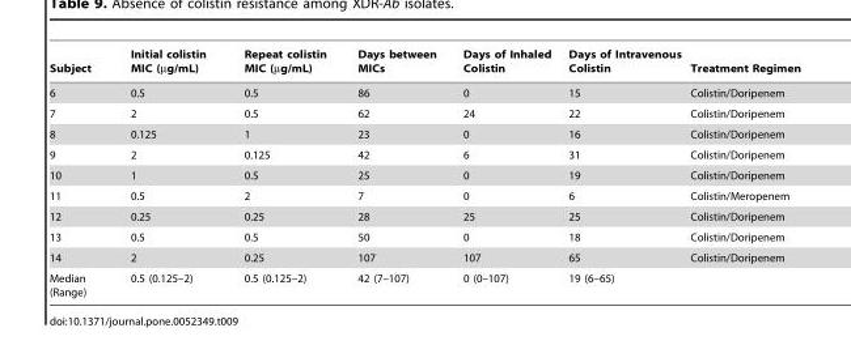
<table><thead><tr><td>Subject</td><td>Initial colistin MIC (µg/mL)</td><td>Repeat colistin MIC (µg/mL)</td><td>Days between MICs</td><td>Days of Inhaled Colistin</td><td>Days of Intravenous Colistin</td><td>Treatment Regimen</td></tr></thead><tbody><tr><td>6</td><td>0.5</td><td>0.5</td><td>86</td><td>0</td><td>15</td><td>Colistin/Doripenem</td></tr><tr><td>7</td><td>2</td><td>0.5</td><td>62</td><td>24</td><td>22</td><td>Colistin/Doripenem</td></tr><tr><td>8</td><td>0.125</td><td>1</td><td>23</td><td>0</td><td>16</td><td>Colistin/Doripenem</td></tr><tr><td>9</td><td>2</td><td>0.125</td><td>42</td><td>6</td><td>31</td><td>Colistin/Doripenem</td></tr><tr><td>10</td><td>1</td><td>0.5</td><td>25</td><td>0</td><td>19</td><td>Colistin/Doripenem</td></tr><tr><td>11</td><td>0.5</td><td>2</td><td>7</td><td>0</td><td>6</td><td>Colistin/Meropenem</td></tr><tr><td>12</td><td>0.25</td><td>0.25</td><td>28</td><td>25</td><td>25</td><td>Colistin/Doripenem</td></tr><tr><td>13</td><td>0.5</td><td>0.5</td><td>50</td><td>0</td><td>18</td><td>Colistin/Doripenem</td></tr><tr><td>14</td><td>2</td><td>0.25</td><td>107</td><td>107</td><td>65</td><td>Colistin/Doripenem</td></tr><tr><td>Median (Range)</td><td>0.5 (0.125–2)</td><td>0.5 (0.125–2)</td><td>42 (7–107)</td><td>0 (0–107)</td><td>19 (6–65)</td><td></td></tr></tbody></table>